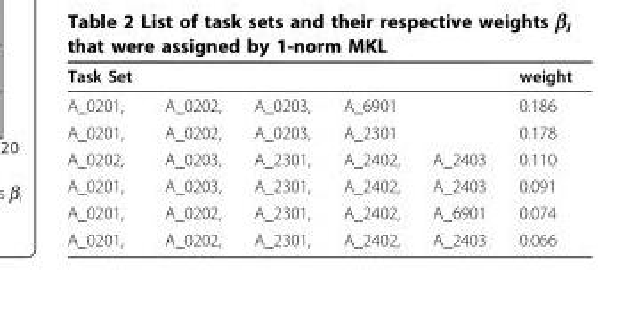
<table><thead><tr><td>Task Set</td><td></td><td></td><td></td><td></td><td>weight</td></tr></thead><tbody><tr><td>A_0201,</td><td>A_0202,</td><td>A_0203,</td><td>A_6901</td><td></td><td>0.186</td></tr><tr><td>A_0201,</td><td>A_0202,</td><td>A_0203,</td><td>A_2301</td><td></td><td>0.178</td></tr><tr><td>A_0202,</td><td>A_0203,</td><td>A_2301,</td><td>A_2402,</td><td>A_2403</td><td>0.110</td></tr><tr><td>A_0201,</td><td>A_0203,</td><td>A_2301,</td><td>A_2402,</td><td>A_2403</td><td>0.091</td></tr><tr><td>A_0201,</td><td>A_0202,</td><td>A_2301,</td><td>A_2402,</td><td>A_6901</td><td>0.074</td></tr><tr><td>A_0201,</td><td>A_0202,</td><td>A_2301,</td><td>A_2402,</td><td>A_2403</td><td>0.066</td></tr></tbody></table>